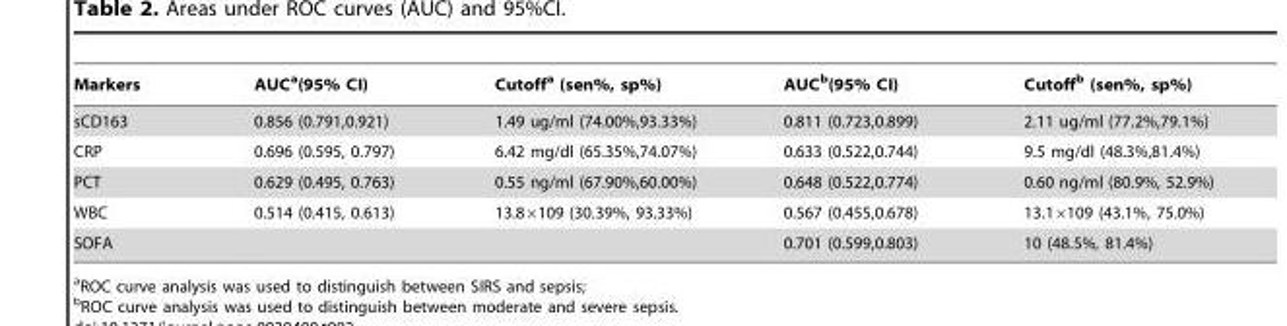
<table><thead><tr><td>Markers</td><td>AUC<sup>a</sup>(95% CI)</td><td>Cutoff<sup>a</sup> (sen%, sp%)</td><td>AUC<sup>b</sup>(95% CI)</td><td>Cutoff<sup>b</sup> (sen%, sp%)</td></tr></thead><tbody><tr><td>sCD163</td><td>0.856 (0.791,0.921)</td><td>1.49 ug/ml (74.00%,93.33%)</td><td>0.811 (0.723,0.899)</td><td>2.11 ug/ml (77.2%,79.1%)</td></tr><tr><td>CRP</td><td>0.696 (0.595, 0.797)</td><td>6.42 mg/dl (65.35%,74.07%)</td><td>0.633 (0.522,0.744)</td><td>9.5 mg/dl (48.3%,81.4%)</td></tr><tr><td>PCT</td><td>0.629 (0.495, 0.763)</td><td>0.55 ng/ml (67.90%,60.00%)</td><td>0.648 (0.522,0.774)</td><td>0.60 ng/ml (80.9%, 52.9%)</td></tr><tr><td>WBC</td><td>0.514 (0.415, 0.613)</td><td>13.8×109 (30.39%, 93.33%)</td><td>0.567 (0.455,0.678)</td><td>13.1×109 (43.1%, 75.0%)</td></tr><tr><td>SOFA</td><td></td><td></td><td>0.701 (0.599,0.803)</td><td>10 (48.5%, 81.4%)</td></tr></tbody></table>